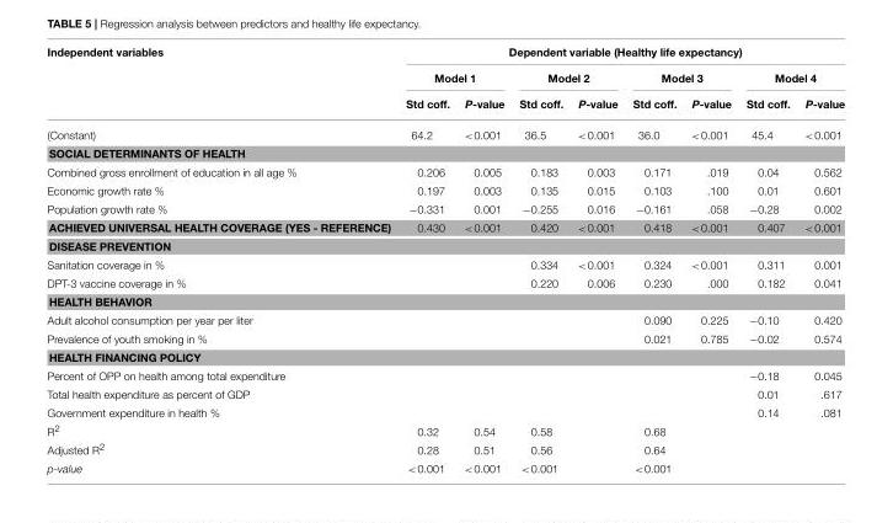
<table><thead><tr><td rowspan="3">Independent variables</td><td colspan="8">Dependent variable (Healthy life expectancy)</td></tr><tr><td colspan="2">Model 1</td><td colspan="2">Model 2</td><td colspan="2">Model 3</td><td colspan="2">Model 4</td></tr><tr><td>Std coff.</td><td>P-value</td><td>Std coff.</td><td>P-value</td><td>Std coff.</td><td>P-value</td><td>Std coff.</td><td>P-value</td></tr></thead><tbody><tr><td>(Constant)</td><td>64.2</td><td>&lt;0.001</td><td>36.5</td><td>&lt;0.001</td><td>36.0</td><td>&lt;0.001</td><td>45.4</td><td>&lt;0.001</td></tr><tr><td colspan="9">SOCIAL DETERMINANTS OF HEALTH</td></tr><tr><td>Combined gross enrollment of education in all age %</td><td>0.206</td><td>0.005</td><td>0.183</td><td>0.003</td><td>0.171</td><td>.019</td><td>0.04</td><td>0.562</td></tr><tr><td>Economic growth rate %</td><td>0.197</td><td>0.003</td><td>0.135</td><td>0.015</td><td>0.103</td><td>.100</td><td>0.01</td><td>0.601</td></tr><tr><td>Population growth rate %</td><td>−0.331</td><td>0.001</td><td>−0.255</td><td>0.016</td><td>−0.161</td><td>.058</td><td>−0.28</td><td>0.002</td></tr><tr><td>ACHIEVED UNIVERSAL HEALTH COVERAGE (YES - REFERENCE)</td><td>0.430</td><td>&lt;0.001</td><td>0.420</td><td>&lt;0.001</td><td>0.418</td><td>&lt;0.001</td><td>0.407</td><td>&lt;0.001</td></tr><tr><td colspan="9">DISEASE PREVENTION</td></tr><tr><td>Sanitation coverage in %</td><td></td><td></td><td>0.334</td><td>&lt;0.001</td><td>0.324</td><td>&lt;0.001</td><td>0.311</td><td>0.001</td></tr><tr><td>DPT-3 vaccine coverage in %</td><td></td><td></td><td>0.220</td><td>0.006</td><td>0.230</td><td>.000</td><td>0.182</td><td>0.041</td></tr><tr><td colspan="9">HEALTH BEHAVIOR</td></tr><tr><td>Adult alcohol consumption per year per liter</td><td></td><td></td><td></td><td></td><td>0.090</td><td>0.225</td><td>−0.10</td><td>0.420</td></tr><tr><td>Prevalence of youth smoking in %</td><td></td><td></td><td></td><td></td><td>0.021</td><td>0.785</td><td>−0.02</td><td>0.574</td></tr><tr><td colspan="9">HEALTH FINANCING POLICY</td></tr><tr><td>Percent of OPP on health among total expenditure</td><td></td><td></td><td></td><td></td><td></td><td></td><td>−0.18</td><td>0.045</td></tr><tr><td>Total health expenditure as percent of GDP</td><td></td><td></td><td></td><td></td><td></td><td></td><td>0.01</td><td>.617</td></tr><tr><td>Government expenditure in health %</td><td></td><td></td><td></td><td></td><td></td><td></td><td>0.14</td><td>.081</td></tr><tr><td>R<sup>2</sup></td><td>0.32</td><td>0.54</td><td>0.58</td><td></td><td>0.68</td><td></td><td></td><td></td></tr><tr><td>Adjusted R<sup>2</sup></td><td>0.28</td><td>0.51</td><td>0.56</td><td></td><td>0.64</td><td></td><td></td><td></td></tr><tr><td>p-value</td><td>&lt;0.001</td><td>&lt;0.001</td><td>&lt;0.001</td><td></td><td>&lt;0.001</td><td></td><td></td><td></td></tr></tbody></table>